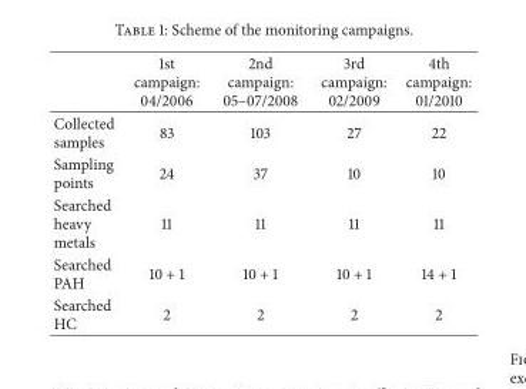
<table><thead><tr><td></td><td>1st campaign: 04/2006</td><td>2nd campaign: 05–07/2008</td><td>3rd campaign: 02/2009</td><td>4th campaign: 01/2010</td></tr></thead><tbody><tr><td>Collected samples</td><td>83</td><td>103</td><td>27</td><td>22</td></tr><tr><td>Sampling points</td><td>24</td><td>37</td><td>10</td><td>10</td></tr><tr><td>Searched heavy metals</td><td>11</td><td>11</td><td>11</td><td>11</td></tr><tr><td>Searched PAH</td><td>10 + 1</td><td>10 + 1</td><td>10 + 1</td><td>14 + 1</td></tr><tr><td>Searched HC</td><td>2</td><td>2</td><td>2</td><td>2</td></tr></tbody></table>